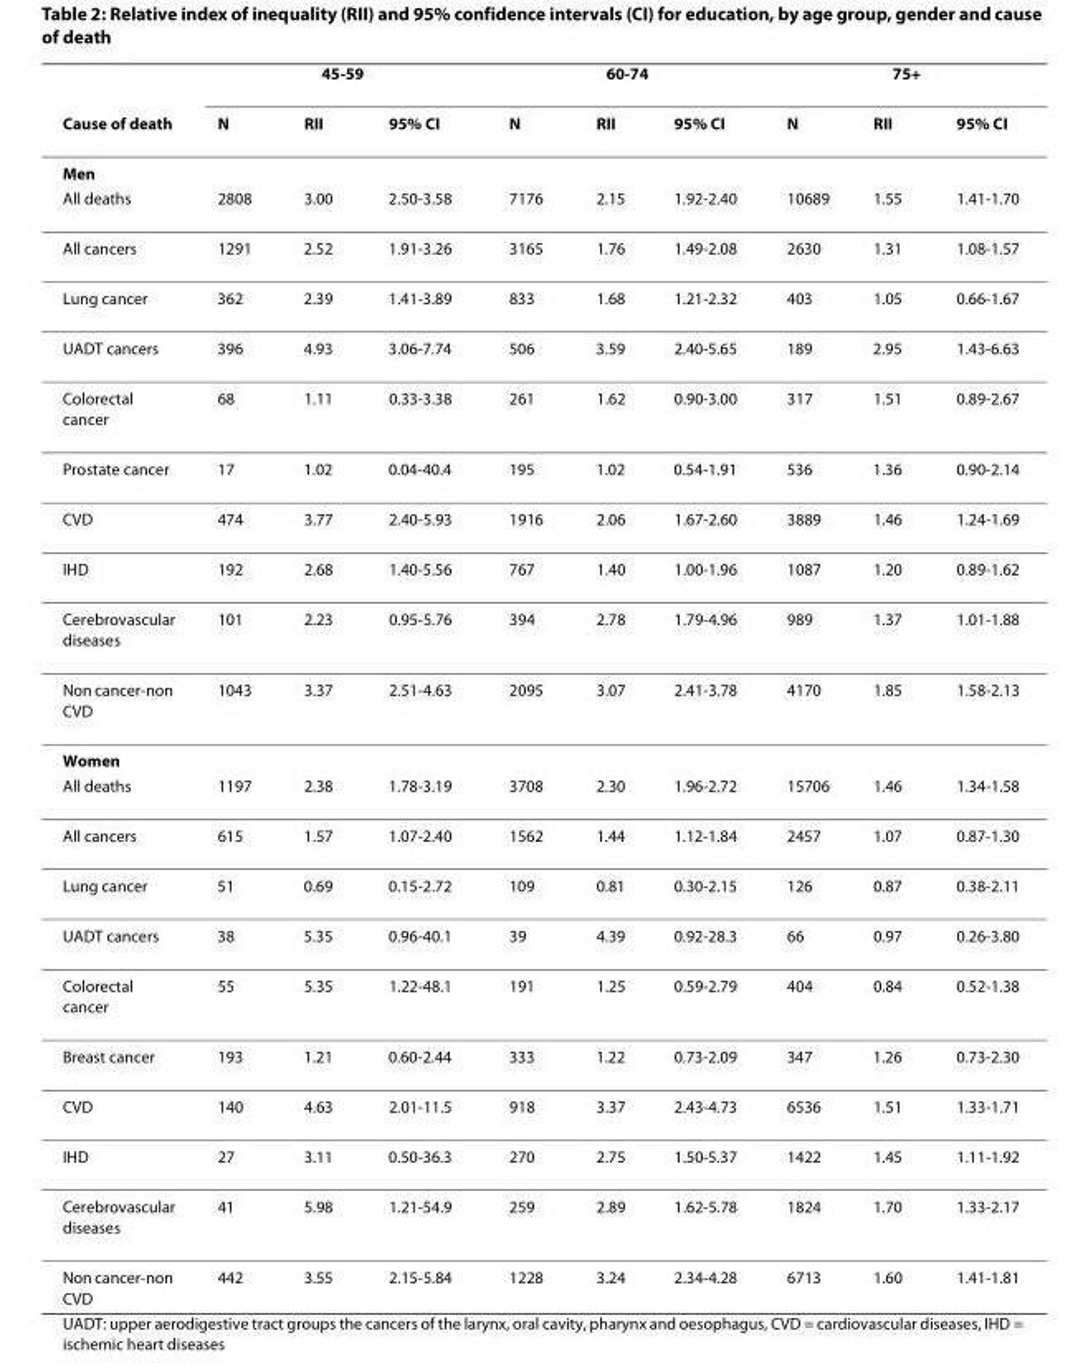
<table><thead><tr><td rowspan="2">Cause of death</td><td colspan="3">45-59</td><td colspan="3">60-74</td><td colspan="3">75+</td></tr><tr><td>N</td><td>RII</td><td>95% CI</td><td>N</td><td>RII</td><td>95% CI</td><td>N</td><td>RII</td><td>95% CI</td></tr></thead><tbody><tr><td colspan="10">Men</td></tr><tr><td>All deaths</td><td>2808</td><td>3.00</td><td>2.50-3.58</td><td>7176</td><td>2.15</td><td>1.92-2.40</td><td>10689</td><td>1.55</td><td>1.41-1.70</td></tr><tr><td>All cancers</td><td>1291</td><td>2.52</td><td>1.91-3.26</td><td>3165</td><td>1.76</td><td>1.49-2.08</td><td>2630</td><td>1.31</td><td>1.08-1.57</td></tr><tr><td>Lung cancer</td><td>362</td><td>2.39</td><td>1.41-3.89</td><td>833</td><td>1.68</td><td>1.21-2.32</td><td>403</td><td>1.05</td><td>0.66-1.67</td></tr><tr><td>UADT cancers</td><td>396</td><td>4.93</td><td>3.06-7.74</td><td>506</td><td>3.59</td><td>2.40-5.65</td><td>189</td><td>2.95</td><td>1.43-6.63</td></tr><tr><td>Colorectal cancer</td><td>68</td><td>1.11</td><td>0.33-3.38</td><td>261</td><td>1.62</td><td>0.90-3.00</td><td>317</td><td>1.51</td><td>0.89-2.67</td></tr><tr><td>Prostate cancer</td><td>17</td><td>1.02</td><td>0.04-40.4</td><td>195</td><td>1.02</td><td>0.54-1.91</td><td>536</td><td>1.36</td><td>0.90-2.14</td></tr><tr><td>CVD</td><td>474</td><td>3.77</td><td>2.40-5.93</td><td>1916</td><td>2.06</td><td>1.67-2.60</td><td>3889</td><td>1.46</td><td>1.24-1.69</td></tr><tr><td>IHD</td><td>192</td><td>2.68</td><td>1.40-5.56</td><td>767</td><td>1.40</td><td>1.00-1.96</td><td>1087</td><td>1.20</td><td>0.89-1.62</td></tr><tr><td>Cerebrovascular diseases</td><td>101</td><td>2.23</td><td>0.95-5.76</td><td>394</td><td>2.78</td><td>1.79-4.96</td><td>989</td><td>1.37</td><td>1.01-1.88</td></tr><tr><td>Non cancer-non CVD</td><td>1043</td><td>3.37</td><td>2.51-4.63</td><td>2095</td><td>3.07</td><td>2.41-3.78</td><td>4170</td><td>1.85</td><td>1.58-2.13</td></tr><tr><td colspan="10">Women</td></tr><tr><td>All deaths</td><td>1197</td><td>2.38</td><td>1.78-3.19</td><td>3708</td><td>2.30</td><td>1.96-2.72</td><td>15706</td><td>1.46</td><td>1.34-1.58</td></tr><tr><td>All cancers</td><td>615</td><td>1.57</td><td>1.07-2.40</td><td>1562</td><td>1.44</td><td>1.12-1.84</td><td>2457</td><td>1.07</td><td>0.87-1.30</td></tr><tr><td>Lung cancer</td><td>51</td><td>0.69</td><td>0.15-2.72</td><td>109</td><td>0.81</td><td>0.30-2.15</td><td>126</td><td>0.87</td><td>0.38-2.11</td></tr><tr><td>UADT cancers</td><td>38</td><td>5.35</td><td>0.96-40.1</td><td>39</td><td>4.39</td><td>0.92-28.3</td><td>66</td><td>0.97</td><td>0.26-3.80</td></tr><tr><td>Colorectal cancer</td><td>55</td><td>5.35</td><td>1.22-48.1</td><td>191</td><td>1.25</td><td>0.59-2.79</td><td>404</td><td>0.84</td><td>0.52-1.38</td></tr><tr><td>Breast cancer</td><td>193</td><td>1.21</td><td>0.60-2.44</td><td>333</td><td>1.22</td><td>0.73-2.09</td><td>347</td><td>1.26</td><td>0.73-2.30</td></tr><tr><td>CVD</td><td>140</td><td>4.63</td><td>2.01-11.5</td><td>918</td><td>3.37</td><td>2.43-4.73</td><td>6536</td><td>1.51</td><td>1.33-1.71</td></tr><tr><td>IHD</td><td>27</td><td>3.11</td><td>0.50-36.3</td><td>270</td><td>2.75</td><td>1.50-5.37</td><td>1422</td><td>1.45</td><td>1.11-1.92</td></tr><tr><td>Cerebrovascular diseases</td><td>41</td><td>5.98</td><td>1.21-54.9</td><td>259</td><td>2.89</td><td>1.62-5.78</td><td>1824</td><td>1.70</td><td>1.33-2.17</td></tr><tr><td>Non cancer-non CVD</td><td>442</td><td>3.55</td><td>2.15-5.84</td><td>1228</td><td>3.24</td><td>2.34-4.28</td><td>6713</td><td>1.60</td><td>1.41-1.81</td></tr></tbody></table>